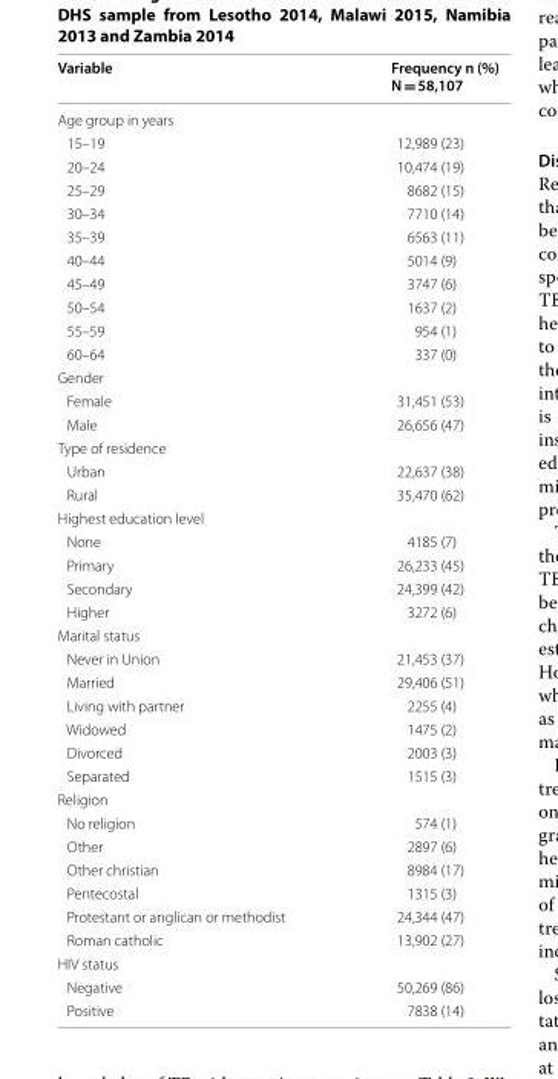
<table><thead><tr><td>Variable</td><td>Frequency n (%) N = 58,107</td></tr></thead><tbody><tr><td colspan="2">Age group in years</td></tr><tr><td>15–19</td><td>12,989 (23)</td></tr><tr><td>20–24</td><td>10,474 (19)</td></tr><tr><td>25–29</td><td>8682 (15)</td></tr><tr><td>30–34</td><td>7710 (14)</td></tr><tr><td>35–39</td><td>6563 (11)</td></tr><tr><td>40–44</td><td>5014 (9)</td></tr><tr><td>45–49</td><td>3747 (6)</td></tr><tr><td>50–54</td><td>1637 (2)</td></tr><tr><td>55–59</td><td>954 (1)</td></tr><tr><td>60–64</td><td>337 (0)</td></tr><tr><td colspan="2">Gender</td></tr><tr><td>Female</td><td>31,451 (53)</td></tr><tr><td>Male</td><td>26,656 (47)</td></tr><tr><td colspan="2">Type of residence</td></tr><tr><td>Urban</td><td>22,637 (38)</td></tr><tr><td>Rural</td><td>35,470 (62)</td></tr><tr><td colspan="2">Highest education level</td></tr><tr><td>None</td><td>4185 (7)</td></tr><tr><td>Primary</td><td>26,233 (45)</td></tr><tr><td>Secondary</td><td>24,399 (42)</td></tr><tr><td>Higher</td><td>3272 (6)</td></tr><tr><td colspan="2">Marital status</td></tr><tr><td>Never in Union</td><td>21,453 (37)</td></tr><tr><td>Married</td><td>29,406 (51)</td></tr><tr><td>Living with partner</td><td>2255 (4)</td></tr><tr><td>Widowed</td><td>1475 (2)</td></tr><tr><td>Divorced</td><td>2003 (3)</td></tr><tr><td>Separated</td><td>1515 (3)</td></tr><tr><td colspan="2">Religion</td></tr><tr><td>No religion</td><td>574 (1)</td></tr><tr><td>Other</td><td>2897 (6)</td></tr><tr><td>Other christian</td><td>8984 (17)</td></tr><tr><td>Pentecostal</td><td>1315 (3)</td></tr><tr><td>Protestant or anglican or methodist</td><td>24,344 (47)</td></tr><tr><td>Roman catholic</td><td>13,902 (27)</td></tr><tr><td colspan="2">HIV status</td></tr><tr><td>Negative</td><td>50,269 (86)</td></tr><tr><td>Positive</td><td>7838 (14)</td></tr></tbody></table>